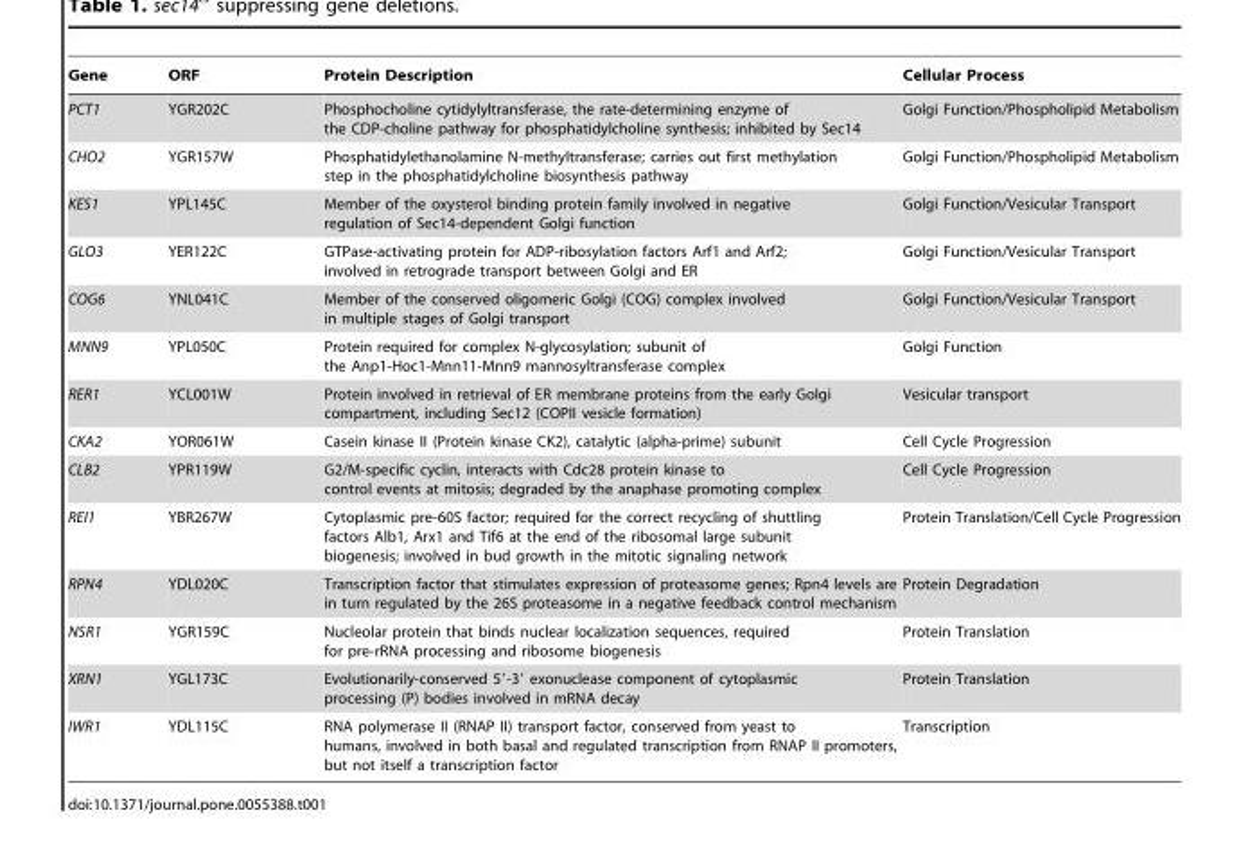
<table><thead><tr><td>Gene</td><td>ORF</td><td>Protein Description</td><td>Cellular Process</td></tr></thead><tbody><tr><td>PCT1</td><td>YGR202C</td><td>Phosphocholine cytidylyltransferase, the rate-determining enzyme of the CDP-choline pathway for phosphatidylcholine synthesis; inhibited by Sec14</td><td>Golgi Function/Phospholipid Metabolism</td></tr><tr><td>CHO2</td><td>YGR157W</td><td>Phosphatidylethanolamine N-methyltransferase; carries out first methylation step in the phosphatidylcholine biosynthesis pathway</td><td>Golgi Function/Phospholipid Metabolism</td></tr><tr><td>KES1</td><td>YPL145C</td><td>Member of the oxysterol binding protein family involved in negative regulation of Sec14-dependent Golgi function</td><td>Golgi Function/Vesicular Transport</td></tr><tr><td>GLO3</td><td>YER122C</td><td>GTPase-activating protein for ADP-ribosylation factors Arf1 and Arf2; involved in retrograde transport between Golgi and ER</td><td>Golgi Function/Vesicular Transport</td></tr><tr><td>COG6</td><td>YNL041C</td><td>Member of the conserved oligomeric Golgi (COG) complex involved in multiple stages of Golgi transport</td><td>Golgi Function/Vesicular Transport</td></tr><tr><td>MNN9</td><td>YPL050C</td><td>Protein required for complex N-glycosylation; subunit of the Anp1-Hoc1-Mnn11-Mnn9 mannosyltransferase complex</td><td>Golgi Function</td></tr><tr><td>RER1</td><td>YCL001W</td><td>Protein involved in retrieval of ER membrane proteins from the early Golgi compartment, including Sec12 (COPII vesicle formation)</td><td>Vesicular transport</td></tr><tr><td>CKA2</td><td>YOR061W</td><td>Casein kinase II (Protein kinase CK2), catalytic (alpha-prime) subunit</td><td>Cell Cycle Progression</td></tr><tr><td>CLB2</td><td>YPR119W</td><td>G2/M-specific cyclin, interacts with Cdc28 protein kinase to control events at mitosis; degraded by the anaphase promoting complex</td><td>Cell Cycle Progression</td></tr><tr><td>REI1</td><td>YBR267W</td><td>Cytoplasmic pre-60S factor; required for the correct recycling of shuttling factors Alb1, Arx1 and Tif6 at the end of the ribosomal large subunit biogenesis; involved in bud growth in the mitotic signaling network</td><td>Protein Translation/Cell Cycle Progression</td></tr><tr><td>RPN4</td><td>YDL020C</td><td>Transcription factor that stimulates expression of proteasome genes; Rpn4 levels are in turn regulated by the 26S proteasome in a negative feedback control mechanism</td><td>Protein Degradation</td></tr><tr><td>NSR1</td><td>YGR159C</td><td>Nucleolar protein that binds nuclear localization sequences, required for pre-rRNA processing and ribosome biogenesis</td><td>Protein Translation</td></tr><tr><td>XRN1</td><td>YGL173C</td><td>Evolutionarily-conserved 5′-3′ exonuclease component of cytoplasmic processing (P) bodies involved in mRNA decay</td><td>Protein Translation</td></tr><tr><td>IWR1</td><td>YDL115C</td><td>RNA polymerase II (RNAP II) transport factor, conserved from yeast to humans, involved in both basal and regulated transcription from RNAP II promoters, but not itself a transcription factor</td><td>Transcription</td></tr></tbody></table>